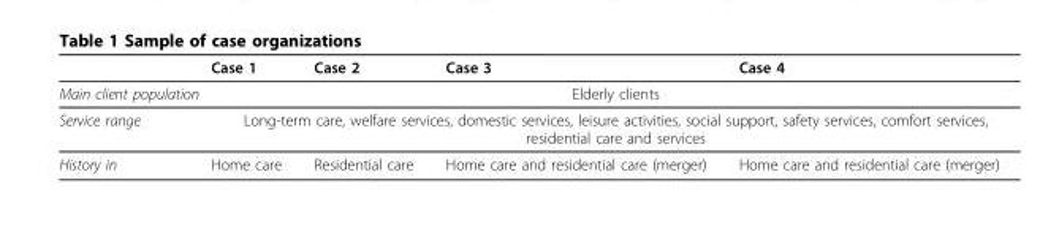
<table><thead><tr><td></td><td>Case 1</td><td>Case 2</td><td>Case 3</td><td>Case 4</td></tr></thead><tbody><tr><td>Main client population</td><td colspan="4">Elderly clients</td></tr><tr><td>Service range</td><td colspan="4">Long-term care, welfare services, domestic services, leisure activities, social support, safety services, comfort services, residential care and services</td></tr><tr><td>History in</td><td>Home care</td><td>Residential care</td><td>Home care and residential care (merger)</td><td>Home care and residential care (merger)</td></tr></tbody></table>